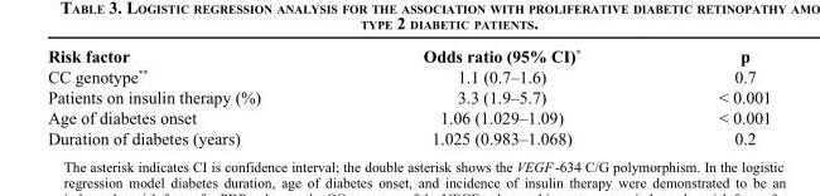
<table><thead><tr><td>Risk factor</td><td>Odds ratio (95% CI)*</td><td>p</td></tr></thead><tbody><tr><td>CC genotype**</td><td>1.1 (0.7–1.6)</td><td>0.7</td></tr><tr><td>Patients on insulin therapy (%)</td><td>3.3 (1.9–5.7)</td><td>&lt; 0.001</td></tr><tr><td>Age of diabetes onset</td><td>1.06 (1.029–1.09)</td><td>&lt; 0.001</td></tr><tr><td>Duration of diabetes (years)</td><td>1.025 (0.983–1.068)</td><td>0.2</td></tr></tbody></table>